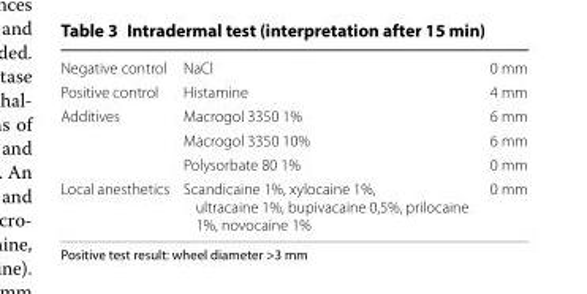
<table><tbody><tr><td>Negative control</td><td>NaCl</td><td>0 mm</td></tr><tr><td>Positive control</td><td>Histamine</td><td>4 mm</td></tr><tr><td rowspan="3">Additives</td><td>Macrogol 3350 1%</td><td>6 mm</td></tr><tr><td>Macrogol 3350 10%</td><td>6 mm</td></tr><tr><td>Polysorbate 80 1%</td><td>0 mm</td></tr><tr><td>Local anesthetics</td><td>Scandicaine 1%, xylocaine 1%, ultracaine 1%, bupivacaine 0,5%, prilocaine 1%, novocaine 1%</td><td>0 mm</td></tr></tbody></table>